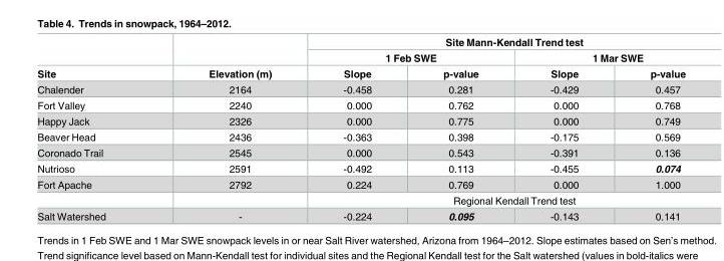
<table><thead><tr><td rowspan="3">Site</td><td rowspan="3">Elevation (m)</td><td colspan="4">Site Mann-Kendall Trend test</td></tr><tr><td colspan="2">1 Feb SWE</td><td colspan="2">1 Mar SWE</td></tr><tr><td>Slope</td><td>p-value</td><td>Slope</td><td>p-value</td></tr></thead><tbody><tr><td>Chalender</td><td>2164</td><td>-0.458</td><td>0.281</td><td>-0.429</td><td>0.457</td></tr><tr><td>Fort Valley</td><td>2240</td><td>0.000</td><td>0.762</td><td>0.000</td><td>0.768</td></tr><tr><td>Happy Jack</td><td>2326</td><td>0.000</td><td>0.775</td><td>0.000</td><td>0.749</td></tr><tr><td>Beaver Head</td><td>2436</td><td>-0.363</td><td>0.398</td><td>-0.175</td><td>0.569</td></tr><tr><td>Coronado Trail</td><td>2545</td><td>0.000</td><td>0.543</td><td>-0.391</td><td>0.136</td></tr><tr><td>Nutrioso</td><td>2591</td><td>-0.492</td><td>0.113</td><td>-0.455</td><td>0.074</td></tr><tr><td rowspan="2">Fort Apache</td><td>2792</td><td>0.224</td><td>0.769</td><td>0.000</td><td>1.000</td></tr><tr><td></td><td colspan="4">Regional Kendall Trend test</td></tr><tr><td>Salt Watershed</td><td>-</td><td>-0.224</td><td>0.095</td><td>-0.143</td><td>0.141</td></tr></tbody></table>